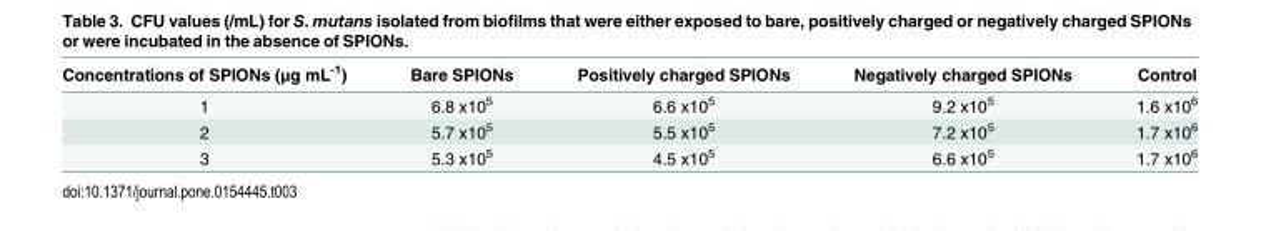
<table><thead><tr><td>Concentrations of SPIONs (μg mL<sup>-1</sup>)</td><td>Bare SPIONs</td><td>Positively charged SPIONs</td><td>Negatively charged SPIONs</td><td>Control</td></tr></thead><tbody><tr><td>1</td><td>6.8 x10<sup>5</sup></td><td>6.6 x10<sup>5</sup></td><td>9.2 x10<sup>5</sup></td><td>1.6 x10<sup>6</sup></td></tr><tr><td>2</td><td>5.7 x10<sup>5</sup></td><td>5.5 x10<sup>5</sup></td><td>7.2 x10<sup>5</sup></td><td>1.7 x10<sup>6</sup></td></tr><tr><td>3</td><td>5.3 x10<sup>5</sup></td><td>4.5 x10<sup>5</sup></td><td>6.6 x10<sup>5</sup></td><td>1.7 x10<sup>6</sup></td></tr></tbody></table>